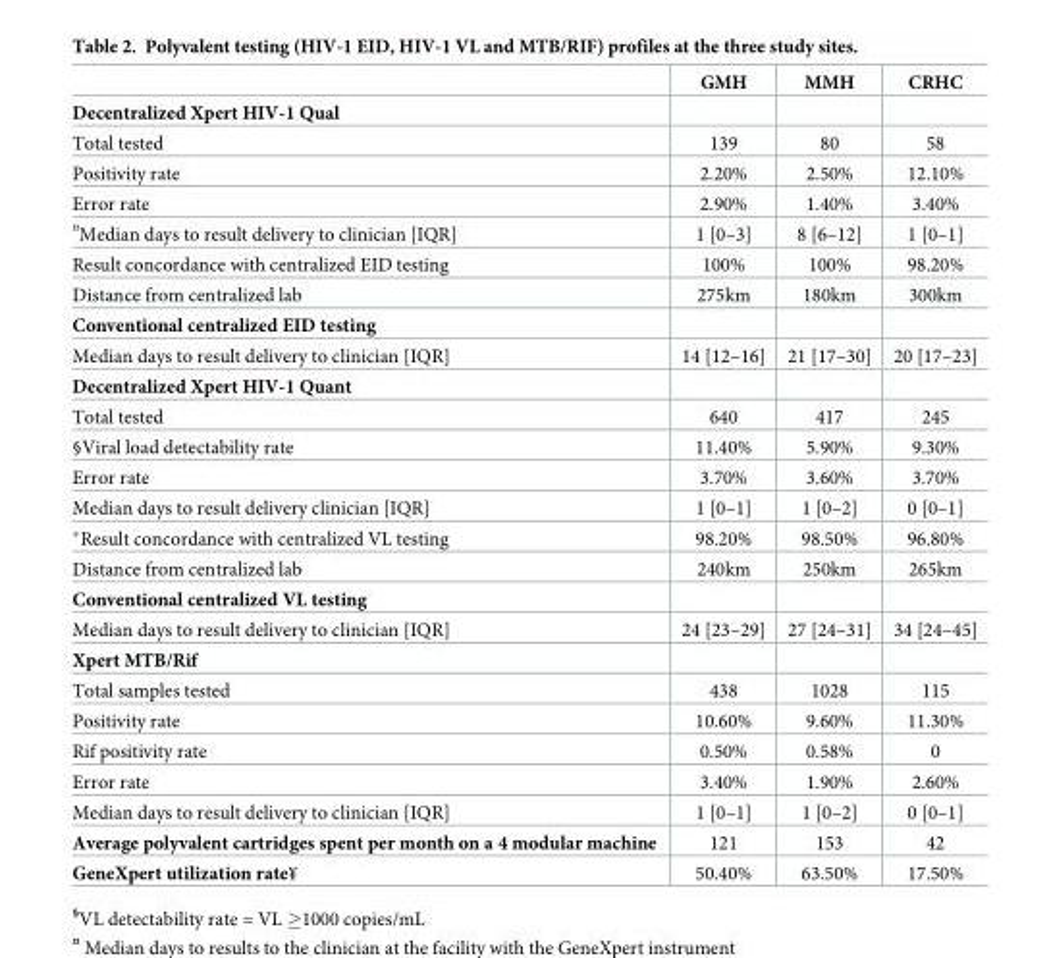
<table><thead><tr><td></td><td>GMH</td><td>MMH</td><td>CRHC</td></tr></thead><tbody><tr><td colspan="4">Decentralized Xpert HIV-1 Qual</td></tr><tr><td>Total tested</td><td>139</td><td>80</td><td>58</td></tr><tr><td>Positivity rate</td><td>2.20%</td><td>2.50%</td><td>12.10%</td></tr><tr><td>Error rate</td><td>2.90%</td><td>1.40%</td><td>3.40%</td></tr><tr><td><sup>¤</sup>Median days to result delivery to clinician [IQR]</td><td>1 [0–3]</td><td>8 [6–12]</td><td>1 [0–1]</td></tr><tr><td>Result concordance with centralized EID testing</td><td>100%</td><td>100%</td><td>98.20%</td></tr><tr><td>Distance from centralized lab</td><td>275km</td><td>180km</td><td>300km</td></tr><tr><td colspan="4">Conventional centralized EID testing</td></tr><tr><td>Median days to result delivery to clinician [IQR]</td><td>14 [12–16]</td><td>21 [17–30]</td><td>20 [17–23]</td></tr><tr><td colspan="4">Decentralized Xpert HIV-1 Quant</td></tr><tr><td>Total tested</td><td>640</td><td>417</td><td>245</td></tr><tr><td>§Viral load detectability rate</td><td>11.40%</td><td>5.90%</td><td>9.30%</td></tr><tr><td>Error rate</td><td>3.70%</td><td>3.60%</td><td>3.70%</td></tr><tr><td>Median days to result delivery clinician [IQR]</td><td>1 [0–1]</td><td>1 [0–2]</td><td>0 [0–1]</td></tr><tr><td>*Result concordance with centralized VL testing</td><td>98.20%</td><td>98.50%</td><td>96.80%</td></tr><tr><td>Distance from centralized lab</td><td>240km</td><td>250km</td><td>265km</td></tr><tr><td colspan="4">Conventional centralized VL testing</td></tr><tr><td>Median days to result delivery to clinician [IQR]</td><td>24 [23–29]</td><td>27 [24–31]</td><td>34 [24–45]</td></tr><tr><td colspan="4">Xpert MTB/Rif</td></tr><tr><td>Total samples tested</td><td>438</td><td>1028</td><td>115</td></tr><tr><td>Positivity rate</td><td>10.60%</td><td>9.60%</td><td>11.30%</td></tr><tr><td>Rif positivity rate</td><td>0.50%</td><td>0.58%</td><td>0</td></tr><tr><td>Error rate</td><td>3.40%</td><td>1.90%</td><td>2.60%</td></tr><tr><td>Median days to result delivery to clinician [IQR]</td><td>1 [0–1]</td><td>1 [0–2]</td><td>0 [0–1]</td></tr><tr><td>Average polyvalent cartridges spent per month on a 4 modular machine</td><td>121</td><td>153</td><td>42</td></tr><tr><td>GeneXpert utilization rate¥</td><td>50.40%</td><td>63.50%</td><td>17.50%</td></tr></tbody></table>